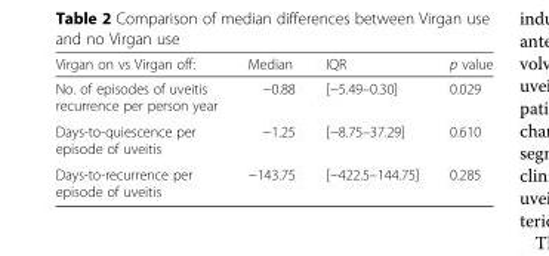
<table><thead><tr><td>Virgan on vs Virgan off:</td><td>Median</td><td>IQR</td><td>p value</td></tr></thead><tbody><tr><td>No. of episodes of uveitis recurrence per person year</td><td>−0.88</td><td>[−5.49–0.30]</td><td>0.029</td></tr><tr><td>Days-to-quiescence per episode of uveitis</td><td>−1.25</td><td>[−8.75–37.29]</td><td>0.610</td></tr><tr><td>Days-to-recurrence per episode of uveitis</td><td>−143.75</td><td>[−422.5–144.75]</td><td>0.285</td></tr></tbody></table>